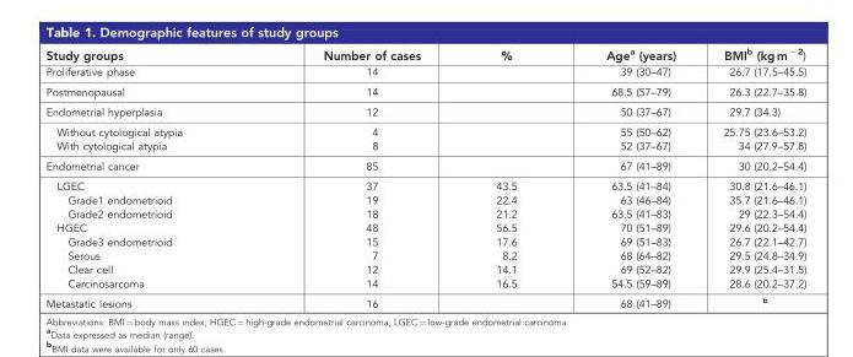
<table><thead><tr><td>Study groups</td><td>Number of cases</td><td>%</td><td>Age<sup>a</sup> (years)</td><td>BMI<sup>b</sup> (kg m <sup>− 2</sup>)</td></tr></thead><tbody><tr><td>Proliferative phase</td><td>14</td><td></td><td>39 (30–47)</td><td>26.7 (17.5–45.5)</td></tr><tr><td>Postmenopausal</td><td>14</td><td></td><td>68.5 (57–79)</td><td>26.3 (22.7–35.8)</td></tr><tr><td>Endometrial hyperplasia</td><td>12</td><td></td><td>50 (37–67)</td><td>29.7 (34.3)</td></tr><tr><td>Without cytological atypia</td><td>4</td><td></td><td>55 (50–62)</td><td>25.75 (23.6–53.2)</td></tr><tr><td>With cytological atypia</td><td>8</td><td></td><td>52 (37–67)</td><td>34 (27.9–57.8)</td></tr><tr><td>Endometrial cancer</td><td>85</td><td></td><td>67 (41–89)</td><td>30 (20.2–54.4)</td></tr><tr><td>LGEC</td><td>37</td><td>43.5</td><td>63.5 (41–84)</td><td>30.8 (21.6–46.1)</td></tr><tr><td>Grade1 endometrioid</td><td>19</td><td>22.4</td><td>63 (46–84)</td><td>35.7 (21.6–46.1)</td></tr><tr><td>Grade2 endometrioid</td><td>18</td><td>21.2</td><td>63.5 (41–83)</td><td>29 (22.3–54.4)</td></tr><tr><td>HGEC</td><td>48</td><td>56.5</td><td>70 (51–89)</td><td>29.6 (20.2–54.4)</td></tr><tr><td>Grade3 endometrioid</td><td>15</td><td>17.6</td><td>69 (51–83)</td><td>26.7 (22.1–42.7)</td></tr><tr><td>Serous</td><td>7</td><td>8.2</td><td>68 (64–82)</td><td>29.5 (24.8–34.9)</td></tr><tr><td>Clear cell</td><td>12</td><td>14.1</td><td>69 (52–82)</td><td>29.9 (25.4–31.5)</td></tr><tr><td>Carcinosarcoma</td><td>14</td><td>16.5</td><td>54.5 (59–89)</td><td>28.6 (20.2–37.2)</td></tr><tr><td>Metastatic lesions</td><td>16</td><td></td><td>68 (41–89)</td><td>b</td></tr></tbody></table>